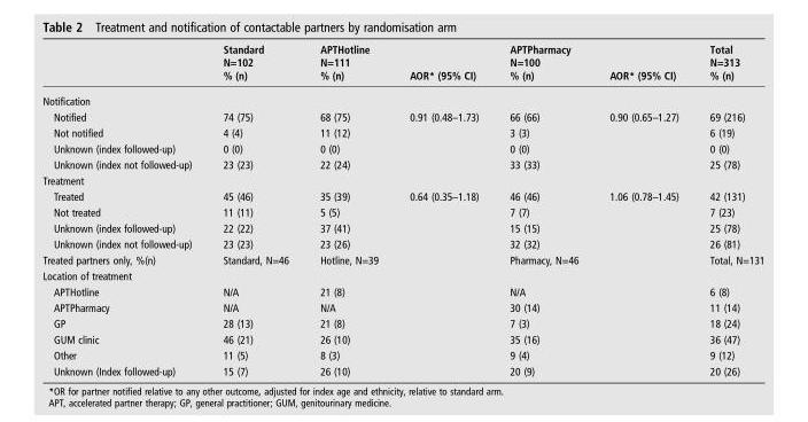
<table><thead><tr><td></td><td>Standard N=102 % (n)</td><td>APTHotline N=111 % (n)</td><td>AOR* (95% CI)</td><td>APTPharmacy N=100 % (n)</td><td>AOR* (95% CI)</td><td>Total N=313 % (n)</td></tr></thead><tbody><tr><td colspan="7">Notification</td></tr><tr><td>Notified</td><td>74 (75)</td><td>68 (75)</td><td>0.91 (0.48–1.73)</td><td>66 (66)</td><td>0.90 (0.65–1.27)</td><td>69 (216)</td></tr><tr><td>Not notified</td><td>4 (4)</td><td>11 (12)</td><td></td><td>3 (3)</td><td></td><td>6 (19)</td></tr><tr><td>Unknown (index followed-up)</td><td>0 (0)</td><td>0 (0)</td><td></td><td>0 (0)</td><td></td><td>0 (0)</td></tr><tr><td>Unknown (index not followed-up)</td><td>23 (23)</td><td>22 (24)</td><td></td><td>33 (33)</td><td></td><td>25 (78)</td></tr><tr><td colspan="7">Treatment</td></tr><tr><td>Treated</td><td>45 (46)</td><td>35 (39)</td><td>0.64 (0.35–1.18)</td><td>46 (46)</td><td>1.06 (0.78–1.45)</td><td>42 (131)</td></tr><tr><td>Not treated</td><td>11 (11)</td><td>5 (5)</td><td></td><td>7 (7)</td><td></td><td>7 (23)</td></tr><tr><td>Unknown (index followed-up)</td><td>22 (22)</td><td>37 (41)</td><td></td><td>15 (15)</td><td></td><td>25 (78)</td></tr><tr><td>Unknown (index not followed-up)</td><td>23 (23)</td><td>23 (26)</td><td></td><td>32 (32)</td><td></td><td>26 (81)</td></tr><tr><td>Treated partners only, %(n)</td><td>Standard, N=46</td><td>Hotline, N=39</td><td></td><td>Pharmacy, N=46</td><td></td><td>Total, N=131</td></tr><tr><td colspan="7">Location of treatment</td></tr><tr><td>APTHotline</td><td>N/A</td><td>21 (8)</td><td></td><td>N/A</td><td></td><td>6 (8)</td></tr><tr><td>APTPharmacy</td><td>N/A</td><td>N/A</td><td></td><td>30 (14)</td><td></td><td>11 (14)</td></tr><tr><td>GP</td><td>28 (13)</td><td>21 (8)</td><td></td><td>7 (3)</td><td></td><td>18 (24)</td></tr><tr><td>GUM clinic</td><td>46 (21)</td><td>26 (10)</td><td></td><td>35 (16)</td><td></td><td>36 (47)</td></tr><tr><td>Other</td><td>11 (5)</td><td>8 (3)</td><td></td><td>9 (4)</td><td></td><td>9 (12)</td></tr><tr><td>Unknown (Index followed-up)</td><td>15 (7)</td><td>26 (10)</td><td></td><td>20 (9)</td><td></td><td>20 (26)</td></tr></tbody></table>